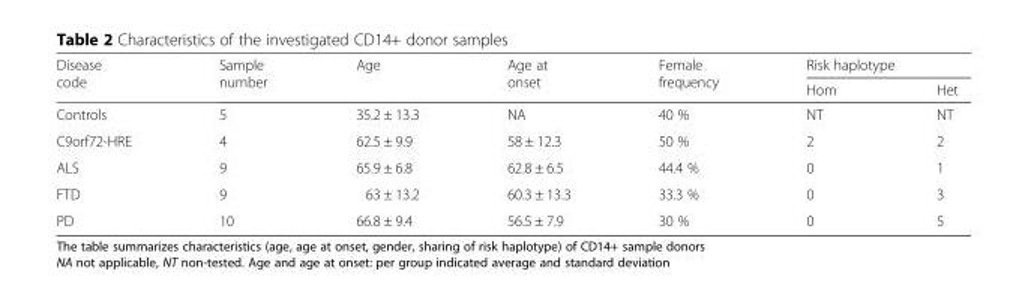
<table><thead><tr><td rowspan="2">Disease code</td><td rowspan="2">Sample number</td><td rowspan="2">Age</td><td rowspan="2">Age at onset</td><td rowspan="2">Female frequency</td><td colspan="2">Risk haplotype</td></tr><tr><td>Hom</td><td>Het</td></tr></thead><tbody><tr><td>Controls</td><td>5</td><td>35.2 ± 13.3</td><td>NA</td><td>40 %</td><td>NT</td><td>NT</td></tr><tr><td>C9orf72-HRE</td><td>4</td><td>62.5 ± 9.9</td><td>58 ± 12.3</td><td>50 %</td><td>2</td><td>2</td></tr><tr><td>ALS</td><td>9</td><td>65.9 ± 6.8</td><td>62.8 ± 6.5</td><td>44.4 %</td><td>0</td><td>1</td></tr><tr><td>FTD</td><td>9</td><td>63 ± 13.2</td><td>60.3 ± 13.3</td><td>33.3 %</td><td>0</td><td>3</td></tr><tr><td>PD</td><td>10</td><td>66.8 ± 9.4</td><td>56.5 ± 7.9</td><td>30 %</td><td>0</td><td>5</td></tr></tbody></table>